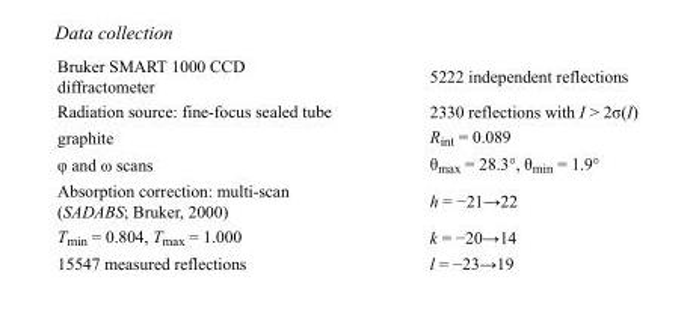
<table><tbody><tr><td>Bruker SMART 1000 CCD diffractometer</td><td>5222 independent reflections</td></tr><tr><td>Radiation source: fine-focus sealed tube</td><td>2330 reflections with I &gt; 2σ(I)</td></tr><tr><td>graphite</td><td>R<sub>int</sub> = 0.089</td></tr><tr><td>φ and ω scans</td><td>θ<sub>max</sub> = 28.3°, θ<sub>min</sub> = 1.9°</td></tr><tr><td>Absorption correction: multi-scan (SADABS; Bruker, 2000)</td><td>h = −21→22</td></tr><tr><td>T<sub>min</sub> = 0.804, T<sub>max</sub> = 1.000</td><td>k = −20→14</td></tr><tr><td>15547 measured reflections</td><td>l = −23→19</td></tr></tbody></table>